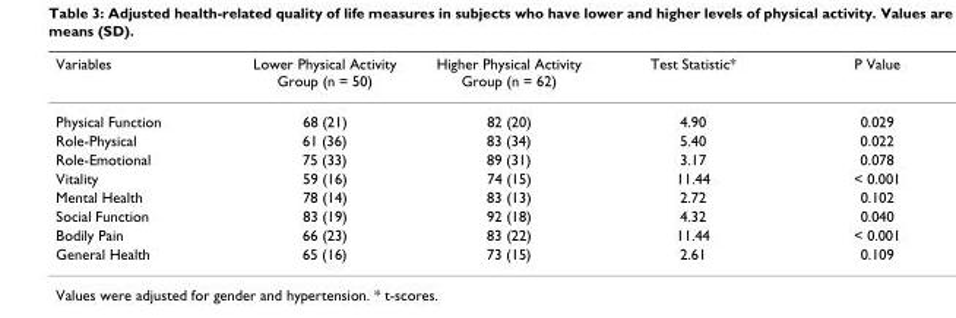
<table><thead><tr><td>Variables</td><td>Lower Physical Activity Group (n = 50)</td><td>Higher Physical Activity Group (n = 62)</td><td>Test Statistic*</td><td>P Value</td></tr></thead><tbody><tr><td>Physical Function</td><td>68 (21)</td><td>82 (20)</td><td>4.90</td><td>0.029</td></tr><tr><td>Role-Physical</td><td>61 (36)</td><td>83 (34)</td><td>5.40</td><td>0.022</td></tr><tr><td>Role-Emotional</td><td>75 (33)</td><td>89 (31)</td><td>3.17</td><td>0.078</td></tr><tr><td>Vitality</td><td>59 (16)</td><td>74 (15)</td><td>11.44</td><td>&lt; 0.001</td></tr><tr><td>Mental Health</td><td>78 (14)</td><td>83 (13)</td><td>2.72</td><td>0.102</td></tr><tr><td>Social Function</td><td>83 (19)</td><td>92 (18)</td><td>4.32</td><td>0.040</td></tr><tr><td>Bodily Pain</td><td>66 (23)</td><td>83 (22)</td><td>11.44</td><td>&lt; 0.001</td></tr><tr><td>General Health</td><td>65 (16)</td><td>73 (15)</td><td>2.61</td><td>0.109</td></tr></tbody></table>